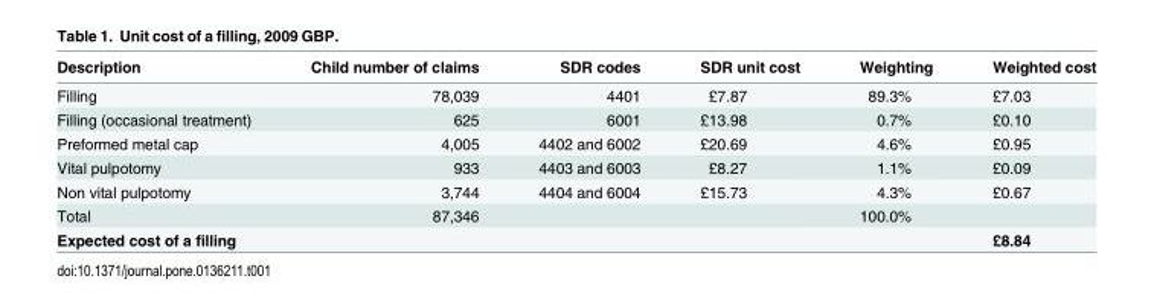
<table><thead><tr><td>Description</td><td>Child number of claims</td><td>SDR codes</td><td>SDR unit cost</td><td>Weighting</td><td>Weighted cost</td></tr></thead><tbody><tr><td>Filling</td><td>78,039</td><td>4401</td><td>£7.87</td><td>89.3%</td><td>£7.03</td></tr><tr><td>Filling (occasional treatment)</td><td>625</td><td>6001</td><td>£13.98</td><td>0.7%</td><td>£0.10</td></tr><tr><td>Preformed metal cap</td><td>4,005</td><td>4402 and 6002</td><td>£20.69</td><td>4.6%</td><td>£0.95</td></tr><tr><td>Vital pulpotomy</td><td>933</td><td>4403 and 6003</td><td>£8.27</td><td>1.1%</td><td>£0.09</td></tr><tr><td>Non vital pulpotomy</td><td>3,744</td><td>4404 and 6004</td><td>£15.73</td><td>4.3%</td><td>£0.67</td></tr><tr><td>Total</td><td>87,346</td><td></td><td></td><td>100.0%</td><td></td></tr><tr><td>Expected cost of a filling</td><td></td><td></td><td></td><td></td><td>£8.84</td></tr></tbody></table>